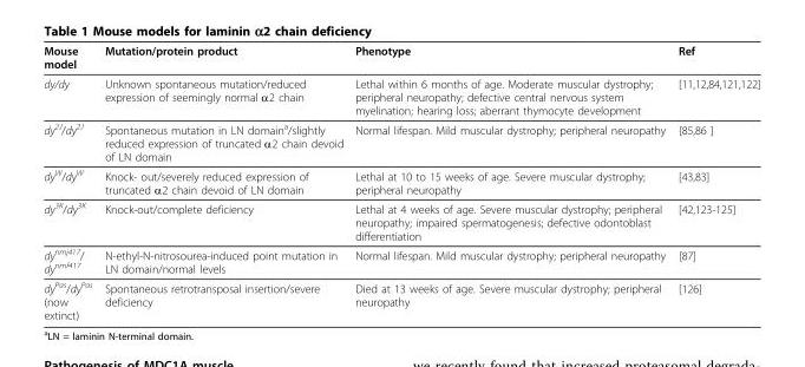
<table><thead><tr><td>Mouse model</td><td>Mutation/protein product</td><td>Phenotype</td><td>Ref</td></tr></thead><tbody><tr><td>dy/dy</td><td>Unknown spontaneous mutation/reduced expression of seemingly normal α2 chain</td><td>Lethal within 6 months of age. Moderate muscular dystrophy; peripheral neuropathy; defective central nervous system myelination; hearing loss; aberrant thymocyte development</td><td>[11,12,84,121,122]</td></tr><tr><td>dy<sup>2J</sup>/dy<sup>2J</sup></td><td>Spontaneous mutation in LN domain<sup>a</sup>/slightly reduced expression of truncated α2 chain devoid of LN domain</td><td>Normal lifespan. Mild muscular dystrophy; peripheral neuropathy</td><td>[85,86 ]</td></tr><tr><td>dy<sup>W</sup>/dy<sup>W</sup></td><td>Knock- out/severely reduced expression of truncated α2 chain devoid of LN domain</td><td>Lethal at 10 to 15 weeks of age. Severe muscular dystrophy; peripheral neuropathy</td><td>[43,83]</td></tr><tr><td>dy<sup>3K</sup>/dy<sup>3K</sup></td><td>Knock-out/complete deficiency</td><td>Lethal at 4 weeks of age. Severe muscular dystrophy; peripheral neuropathy; impaired spermatogenesis; defective odontoblast differentiation</td><td>[42,123-125]</td></tr><tr><td>dy<sup>nmj417</sup>/ dy<sup>nmf417</sup></td><td>N-ethyl-N-nitrosourea-induced point mutation in LN domain/normal levels</td><td>Normal lifespan. Mild muscular dystrophy; peripheral neuropathy</td><td>[87]</td></tr><tr><td>dy<sup>Pas</sup>/dy<sup>Pas</sup> (now extinct)</td><td>Spontaneous retrotransposal insertion/severe deficiency</td><td>Died at 13 weeks of age. Severe muscular dystrophy; peripheral neuropathy</td><td>[126]</td></tr></tbody></table>